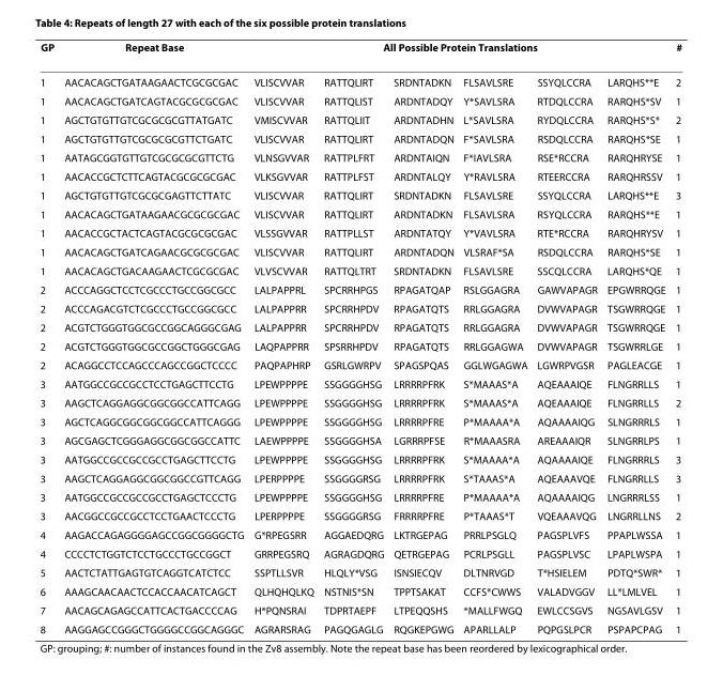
<table><thead><tr><td rowspan="2">GP 1</td><td rowspan="2">Repeat Base AACACAGCTGATAAGAACTCGCGCGAC</td><td colspan="6">All Possible Protein Translations</td><td rowspan="2"># 2</td></tr><tr><td>VLISCVVAR</td><td>RATTQLIRT</td><td>SRDNTADKN</td><td>FLSAVLSRE</td><td>SSYQLCCRA</td><td>LARQHS**E</td></tr></thead><tbody><tr><td>1</td><td>AACACAGCTGATCAGTACGCGCGCGAC</td><td>VLISCVVAR</td><td>RATTQLIST</td><td>ARDNTADQY</td><td>Y*SAVLSRA</td><td>RTDQLCCRA</td><td>RARQHS*SV</td><td>1</td></tr><tr><td>1</td><td>AGCTGTGTTGTCGCGCGCGTTATGATC</td><td>VMISCVVAR</td><td>RATTQLIIT</td><td>ARDNTADHN</td><td>L*SAVLSRA</td><td>RYDQLCCRA</td><td>RARQHS*S*</td><td>2</td></tr><tr><td>1</td><td>AGCTGTGTTGTCGCGCGCGTTCTGATC</td><td>VLISCVVAR</td><td>RATTQLIRT</td><td>ARDNTADQN</td><td>F*SAVLSRA</td><td>RSDQLCCRA</td><td>RARQHS*SE</td><td>1</td></tr><tr><td>1</td><td>AATAGCGGTGTTGTCGCGCGCGTTCTG</td><td>VLNSGVVAR</td><td>RATTPLFRT</td><td>ARDNTAIQN</td><td>F*IAVLSRA</td><td>RSE*RCCRA</td><td>RARQHRYSE</td><td>1</td></tr><tr><td>1</td><td>AACACCGCTCTTCAGTACGCGCGCGAC</td><td>VLKSGVVAR</td><td>RATTPLFST</td><td>ARDNTALQY</td><td>Y*RAVLSRA</td><td>RTEERCCRA</td><td>RARQHRSSV</td><td>1</td></tr><tr><td>1</td><td>AGCTGTGTTGTCGCGCGAGTTCTTATC</td><td>VLISCVVAR</td><td>RATTQLIRT</td><td>SRDNTADKN</td><td>FLSAVLSRE</td><td>SSYQLCCRA</td><td>LARQHS**E</td><td>3</td></tr><tr><td>1</td><td>AACACAGCTGATAAGAACGCGCGCGAC</td><td>VLISCVVAR</td><td>RATTQLIRT</td><td>ARDNTADKN</td><td>FLSAVLSRA</td><td>RSYQLCCRA</td><td>RARQHS**E</td><td>1</td></tr><tr><td>1</td><td>AACACCGCTACTCAGTACGCGCGCGAC</td><td>VLSSGVVAR</td><td>RATTPLLST</td><td>ARDNTATQY</td><td>Y*VAVLSRA</td><td>RTE*RCCRA</td><td>RARQHRYSV</td><td>1</td></tr><tr><td>1</td><td>AACACAGCTGATCAGAACGCGCGCGAC</td><td>VLISCVVAR</td><td>RATTQLIRT</td><td>ARDNTADQN</td><td>VLSRAF*SA</td><td>RSDQLCCRA</td><td>RARQHS*SE</td><td>1</td></tr><tr><td>1</td><td>AACACAGCTGACAAGAACTCGCGCGAC</td><td>VLVSCVVAR</td><td>RATTQLTRT</td><td>SRDNTADKN</td><td>FLSAVLSRE</td><td>SSCQLCCRA</td><td>LARQHS*QE</td><td>1</td></tr><tr><td>2</td><td>ACCCAGGCTCCTCGCCCTGCCGGCGCC</td><td>LALPAPPRL</td><td>SPCRRHPGS</td><td>RPAGATQAP</td><td>RSLGGAGRA</td><td>GAWVAPAGR</td><td>EPGWRRQGE</td><td>1</td></tr><tr><td>2</td><td>ACCCAGACGTCTCGCCCTGCCGGCGCC</td><td>LALPAPPRR</td><td>SPCRRHPDV</td><td>RPAGATQTS</td><td>RRLGGAGRA</td><td>DVWVAPAGR</td><td>TSGWRRQGE</td><td>1</td></tr><tr><td>2</td><td>ACGTCTGGGTGGCGCCGGCAGGGCGAG</td><td>LALPAPPRR</td><td>SPCRRHPDV</td><td>RPAGATQTS</td><td>RRLGGAGRA</td><td>DVWVAPAGR</td><td>TSGWRRQGE</td><td>1</td></tr><tr><td>2</td><td>ACGTCTGGGTGGCGCCGGCTGGGCGAG</td><td>LAQPAPPRR</td><td>SPSRRHPDV</td><td>RPAGATQTS</td><td>RRLGGAGWA</td><td>DVWVAPAGR</td><td>TSGWRRLGE</td><td>1</td></tr><tr><td>2</td><td>ACAGGCCTCCAGCCCAGCCGGCTCCCC</td><td>PAQPAPHRP</td><td>GSRLGWRPV</td><td>SPAGSPQAS</td><td>GGLWGAGWA</td><td>LGWRPVGSR</td><td>PAGLEACGE</td><td>1</td></tr><tr><td>3</td><td>AATGGCCGCCGCCTCCTGAGCTTCCTG</td><td>LPEWPPPPE</td><td>SSGGGGHSG</td><td>LRRRRPFRK</td><td>S*MAAAS*A</td><td>AQEAAAIQE</td><td>FLNGRRLLS</td><td>1</td></tr><tr><td>3</td><td>AAGCTCAGGAGGCGGCGGCCATTCAGG</td><td>LPEWPPPPE</td><td>SSGGGGHSG</td><td>LRRRRPFRK</td><td>S*MAAAS*A</td><td>AQEAAAIQE</td><td>FLNGRRLLS</td><td>2</td></tr><tr><td>3</td><td>AGCTCAGGCGGCGGCGGCCATTCAGGG</td><td>LPEWPPPPE</td><td>SSGGGGHSG</td><td>LRRRRPFRE</td><td>P*MAAAA*A</td><td>AQAAAAIQG</td><td>SLNGRRRLS</td><td>1</td></tr><tr><td>3</td><td>AGCGAGCTCGGGAGGCGGCGGCCATTC</td><td>LAEWPPPPE</td><td>SSGGGGHSA</td><td>LGRRRPFSE</td><td>R*MAAASRA</td><td>AREAAAIQR</td><td>SLNGRRLPS</td><td>1</td></tr><tr><td>3</td><td>AATGGCCGCCGCCGCCTGAGCTTCCTG</td><td>LPEWPPPPE</td><td>SSGGGGHSG</td><td>LRRRRPFRK</td><td>S*MAAAA*A</td><td>AQAAAAIQE</td><td>FLNGRRRLS</td><td>3</td></tr><tr><td>3</td><td>AAGCTCAGGAGGCGGCGGCCGTTCAGG</td><td>LPERPPPPE</td><td>SSGGGGRSG</td><td>LRRRRPFRK</td><td>S*TAAAS*A</td><td>AQEAAAVQE</td><td>FLNGRRLLS</td><td>3</td></tr><tr><td>3</td><td>AATGGCCGCCGCCGCCTGAGCTCCCTG</td><td>LPEWPPPPE</td><td>SSGGGGHSG</td><td>LRRRRPFRE</td><td>P*MAAAA*A</td><td>AQAAAAIQG</td><td>LNGRRRLSS</td><td>1</td></tr><tr><td>3</td><td>AACGGCCGCCGCCTCCTGAACTCCCTG</td><td>LPERPPPPE</td><td>SSGGGGRSG</td><td>FRRRRPFRE</td><td>P*TAAAS*T</td><td>VQEAAAVQG</td><td>LNGRRLLNS</td><td>2</td></tr><tr><td>4</td><td>AAGACCAGAGGGGAGCCGGCGGGGCTG</td><td>G*RPEGSRR</td><td>AGGAEDQRG</td><td>LKTRGEPAG</td><td>PRRLPSGLQ</td><td>PAGSPLVFS</td><td>PPAPLWSSA</td><td>1</td></tr><tr><td>4</td><td>CCCCTCTGGTCTCCTGCCCTGCCGGCT</td><td>GRRPEGSRQ</td><td>AGRAGDQRG</td><td>QETRGEPAG</td><td>PCRLPSGLL</td><td>PAGSPLVSC</td><td>LPAPLWSPA</td><td>1</td></tr><tr><td>5</td><td>AACTCTATTGAGTGTCAGGTCATCTCC</td><td>SSPTLLSVR</td><td>HLQLY*VSG</td><td>ISNSIECQV</td><td>DLTNRVGD</td><td>T*HSIELEM</td><td>PDTQ*SWR*</td><td>1</td></tr><tr><td>6</td><td>AAAGCAACAACTCCACCAACATCAGCT</td><td>QLHQHQLKQ</td><td>NSTNIS*SN</td><td>TPPTSAKAT</td><td>CCFS*CWWS</td><td>VALADVGGV</td><td>LL*LMLVEL</td><td>1</td></tr><tr><td>7</td><td>AACAGCAGAGCCATTCACTGACCCCAG</td><td>H*PQNSRAI</td><td>TDPRTAEPF</td><td>LTPEQQSHS</td><td>*MALLFWGQ</td><td>EWLCCSGVS</td><td>NGSAVLGSV</td><td>1</td></tr><tr><td>8</td><td>AAGGAGCCGGGCTGGGGCCGGCAGGGC</td><td>AGRARSRAG</td><td>PAGQGAGLG</td><td>RQGKEPGWG</td><td>APARLLALP</td><td>PQPGSLPCR</td><td>PSPAPCPAG</td><td>1</td></tr></tbody></table>